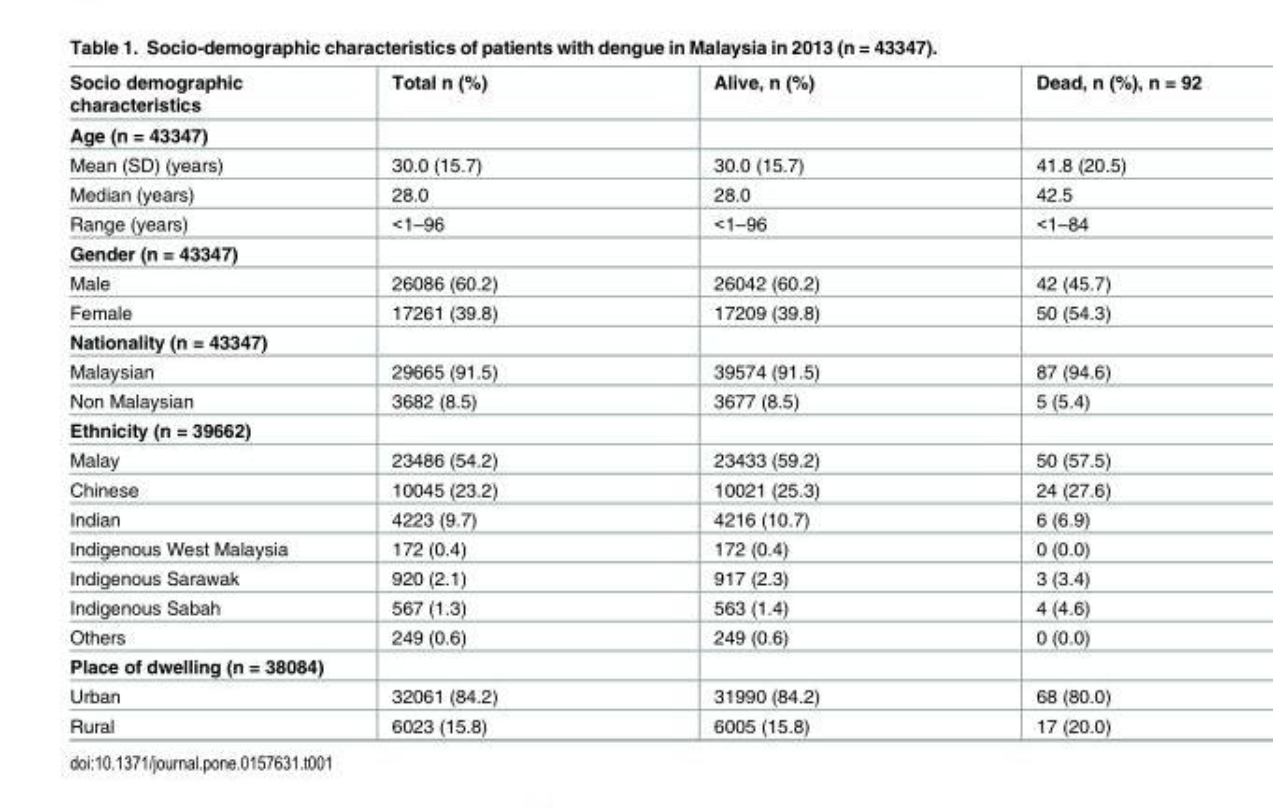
<table><thead><tr><td>Socio demographic characteristics</td><td>Total n (%)</td><td>Alive, n (%)</td><td>Dead, n (%), n = 92</td></tr></thead><tbody><tr><td colspan="4">Age (n = 43347)</td></tr><tr><td>Mean (SD) (years)</td><td>30.0 (15.7)</td><td>30.0 (15.7)</td><td>41.8 (20.5)</td></tr><tr><td>Median (years)</td><td>28.0</td><td>28.0</td><td>42.5</td></tr><tr><td>Range (years)</td><td>&lt;1–96</td><td>&lt;1–96</td><td>&lt;1–84</td></tr><tr><td colspan="4">Gender (n = 43347)</td></tr><tr><td>Male</td><td>26086 (60.2)</td><td>26042 (60.2)</td><td>42 (45.7)</td></tr><tr><td>Female</td><td>17261 (39.8)</td><td>17209 (39.8)</td><td>50 (54.3)</td></tr><tr><td colspan="4">Nationality (n = 43347)</td></tr><tr><td>Malaysian</td><td>29665 (91.5)</td><td>39574 (91.5)</td><td>87 (94.6)</td></tr><tr><td>Non Malaysian</td><td>3682 (8.5)</td><td>3677 (8.5)</td><td>5 (5.4)</td></tr><tr><td colspan="4">Ethnicity (n = 39662)</td></tr><tr><td>Malay</td><td>23486 (54.2)</td><td>23433 (59.2)</td><td>50 (57.5)</td></tr><tr><td>Chinese</td><td>10045 (23.2)</td><td>10021 (25.3)</td><td>24 (27.6)</td></tr><tr><td>Indian</td><td>4223 (9.7)</td><td>4216 (10.7)</td><td>6 (6.9)</td></tr><tr><td>Indigenous West Malaysia</td><td>172 (0.4)</td><td>172 (0.4)</td><td>0 (0.0)</td></tr><tr><td>Indigenous Sarawak</td><td>920 (2.1)</td><td>917 (2.3)</td><td>3 (3.4)</td></tr><tr><td>Indigenous Sabah</td><td>567 (1.3)</td><td>563 (1.4)</td><td>4 (4.6)</td></tr><tr><td>Others</td><td>249 (0.6)</td><td>249 (0.6)</td><td>0 (0.0)</td></tr><tr><td colspan="4">Place of dwelling (n = 38084)</td></tr><tr><td>Urban</td><td>32061 (84.2)</td><td>31990 (84.2)</td><td>68 (80.0)</td></tr><tr><td>Rural</td><td>6023 (15.8)</td><td>6005 (15.8)</td><td>17 (20.0)</td></tr></tbody></table>